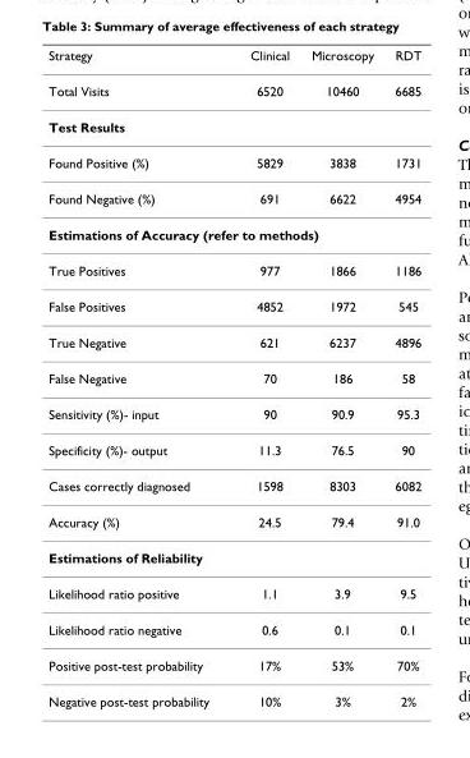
<table><thead><tr><td>Strategy</td><td>Clinical</td><td>Microscopy</td><td>RDT</td></tr></thead><tbody><tr><td>Total Visits</td><td>6520</td><td>10460</td><td>6685</td></tr><tr><td colspan="4">Test Results</td></tr><tr><td>Found Positive (%)</td><td>5829</td><td>3838</td><td>1731</td></tr><tr><td>Found Negative (%)</td><td>691</td><td>6622</td><td>4954</td></tr><tr><td colspan="4">Estimations of Accuracy (refer to methods)</td></tr><tr><td>True Positives</td><td>977</td><td>1866</td><td>1186</td></tr><tr><td>False Positives</td><td>4852</td><td>1972</td><td>545</td></tr><tr><td>True Negative</td><td>621</td><td>6237</td><td>4896</td></tr><tr><td>False Negative</td><td>70</td><td>186</td><td>58</td></tr><tr><td>Sensitivity (%)- input</td><td>90</td><td>90.9</td><td>95.3</td></tr><tr><td>Specificity (%)- output</td><td>11.3</td><td>76.5</td><td>90</td></tr><tr><td>Cases correctly diagnosed</td><td>1598</td><td>8303</td><td>6082</td></tr><tr><td>Accuracy (%)</td><td>24.5</td><td>79.4</td><td>91.0</td></tr><tr><td colspan="4">Estimations of Reliability</td></tr><tr><td>Likelihood ratio positive</td><td>1.1</td><td>3.9</td><td>9.5</td></tr><tr><td>Likelihood ratio negative</td><td>0.6</td><td>0.1</td><td>0.1</td></tr><tr><td>Positive post-test probability</td><td>17%</td><td>53%</td><td>70%</td></tr><tr><td>Negative post-test probability</td><td>10%</td><td>3%</td><td>2%</td></tr></tbody></table>